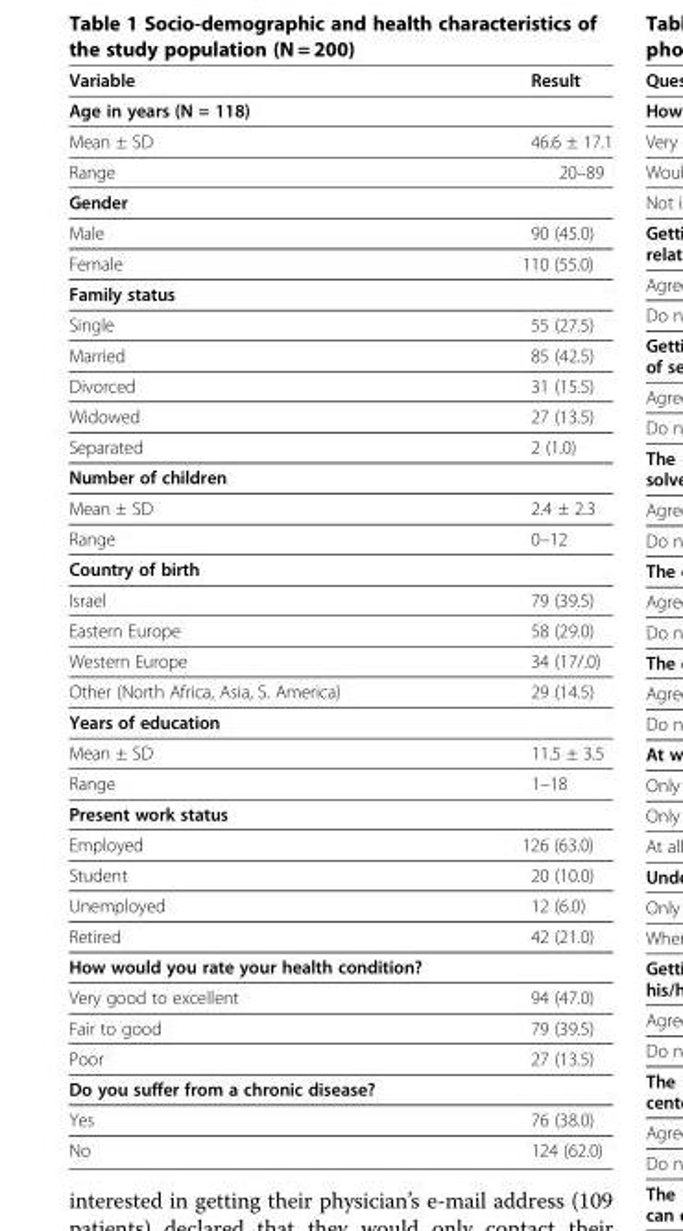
<table><thead><tr><td>Variable</td><td>Result</td></tr></thead><tbody><tr><td colspan="2">Age in years (N = 118)</td></tr><tr><td>Mean ± SD</td><td>46.6 ± 17.1</td></tr><tr><td>Range</td><td>20–89</td></tr><tr><td colspan="2">Gender</td></tr><tr><td>Male</td><td>90 (45.0)</td></tr><tr><td>Female</td><td>110 (55.0)</td></tr><tr><td colspan="2">Family status</td></tr><tr><td>Single</td><td>55 (27.5)</td></tr><tr><td>Married</td><td>85 (42.5)</td></tr><tr><td>Divorced</td><td>31 (15.5)</td></tr><tr><td>Widowed</td><td>27 (13.5)</td></tr><tr><td>Separated</td><td>2 (1.0)</td></tr><tr><td colspan="2">Number of children</td></tr><tr><td>Mean ± SD</td><td>2.4 ± 2.3</td></tr><tr><td>Range</td><td>0–12</td></tr><tr><td colspan="2">Country of birth</td></tr><tr><td>Israel</td><td>79 (39.5)</td></tr><tr><td>Eastern Europe</td><td>58 (29.0)</td></tr><tr><td>Western Europe</td><td>34 (17/.0)</td></tr><tr><td>Other (North Africa, Asia, S. America)</td><td>29 (14.5)</td></tr><tr><td colspan="2">Years of education</td></tr><tr><td>Mean ± SD</td><td>11.5 ± 3.5</td></tr><tr><td>Range</td><td>1–18</td></tr><tr><td colspan="2">Present work status</td></tr><tr><td>Employed</td><td>126 (63.0)</td></tr><tr><td>Student</td><td>20 (10.0)</td></tr><tr><td>Unemployed</td><td>12 (6.0)</td></tr><tr><td>Retired</td><td>42 (21.0)</td></tr><tr><td colspan="2">How would you rate your health condition?</td></tr><tr><td>Very good to excellent</td><td>94 (47.0)</td></tr><tr><td>Fair to good</td><td>79 (39.5)</td></tr><tr><td>Poor</td><td>27 (13.5)</td></tr><tr><td colspan="2">Do you suffer from a chronic disease?</td></tr><tr><td>Yes</td><td>76 (38.0)</td></tr><tr><td>No</td><td>124 (62.0)</td></tr></tbody></table>